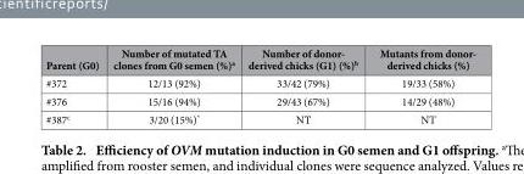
<table><thead><tr><td>Parent (G0)</td><td>Number of mutated TA clones from G0 semen (%)<sup>a</sup></td><td>Number of donor- derived chicks (G1) (%)<sup>b</sup></td><td>Mutants from donor- derived chicks (%)</td></tr></thead><tbody><tr><td>#372</td><td>12/13 (92%)</td><td>33/42 (79%)</td><td>19/33 (58%)</td></tr><tr><td>#376</td><td>15/16 (94%)</td><td>29/43 (67%)</td><td>14/29 (48%)</td></tr><tr><td>#387<sup>c</sup></td><td>3/20 (15%)*</td><td>NT</td><td>NT</td></tr></tbody></table>